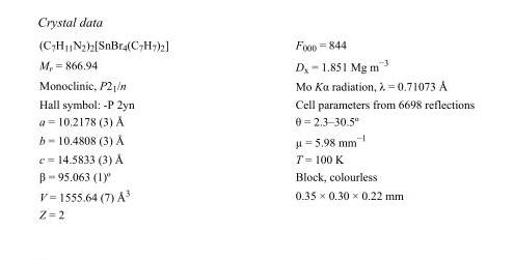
<table><tbody><tr><td>(C<sub>7</sub>H<sub>11</sub>N<sub>2</sub>)<sub>2</sub>[SnBr<sub>4</sub>(C<sub>7</sub>H<sub>7</sub>)<sub>2</sub>]</td><td>F000 = 844</td></tr><tr><td>M<sub>r</sub> = 866.94</td><td>D<sub>x</sub> = 1.851 Mg m<sup>−3</sup></td></tr><tr><td>Monoclinic, P2<sub>1</sub>/n</td><td>Mo Kα radiation, λ = 0.71073 Å</td></tr><tr><td>Hall symbol: -P 2yn</td><td>Cell parameters from 6698 reflections</td></tr><tr><td>a = 10.2178 (3) Å</td><td>θ = 2.3–30.5º</td></tr><tr><td>b = 10.4808 (3) Å</td><td>µ = 5.98 mm<sup>−1</sup></td></tr><tr><td>c = 14.5833 (3) Å</td><td>T = 100 K</td></tr><tr><td>β = 95.063 (1)º</td><td>Block, colourless</td></tr><tr><td>V = 1555.64 (7) Å<sup>3</sup></td><td>0.35 × 0.30 × 0.22 mm</td></tr><tr><td>Z = 2</td><td></td></tr></tbody></table>